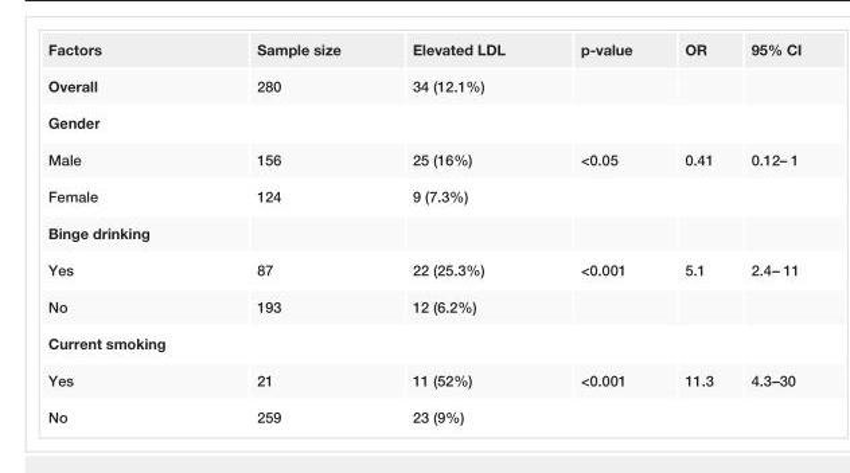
<table><tbody><tr><td>Factors</td><td>Sample size</td><td>Elevated LDL</td><td>p-value</td><td>OR</td><td>95% CI</td></tr><tr><td>Overall</td><td>280</td><td>34 (12.1%)</td><td></td><td></td><td></td></tr><tr><td colspan="6">Gender</td></tr><tr><td>Male</td><td>156</td><td>25 (16%)</td><td>&lt;0.05</td><td>0.41</td><td>0.12– 1</td></tr><tr><td>Female</td><td>124</td><td>9 (7.3%)</td><td></td><td></td><td></td></tr><tr><td colspan="6">Binge drinking</td></tr><tr><td>Yes</td><td>87</td><td>22 (25.3%)</td><td>&lt;0.001</td><td>5.1</td><td>2.4– 11</td></tr><tr><td>No</td><td>193</td><td>12 (6.2%)</td><td></td><td></td><td></td></tr><tr><td colspan="6">Current smoking</td></tr><tr><td>Yes</td><td>21</td><td>11 (52%)</td><td>&lt;0.001</td><td>11.3</td><td>4.3–30</td></tr><tr><td>No</td><td>259</td><td>23 (9%)</td><td></td><td></td><td></td></tr></tbody></table>